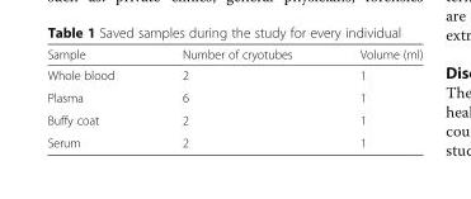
<table><thead><tr><td>Sample</td><td>Number of cryotubes</td><td>Volume (ml)</td></tr></thead><tbody><tr><td>Whole blood</td><td>2</td><td>1</td></tr><tr><td>Plasma</td><td>6</td><td>1</td></tr><tr><td>Buffy coat</td><td>2</td><td>1</td></tr><tr><td>Serum</td><td>2</td><td>1</td></tr></tbody></table>